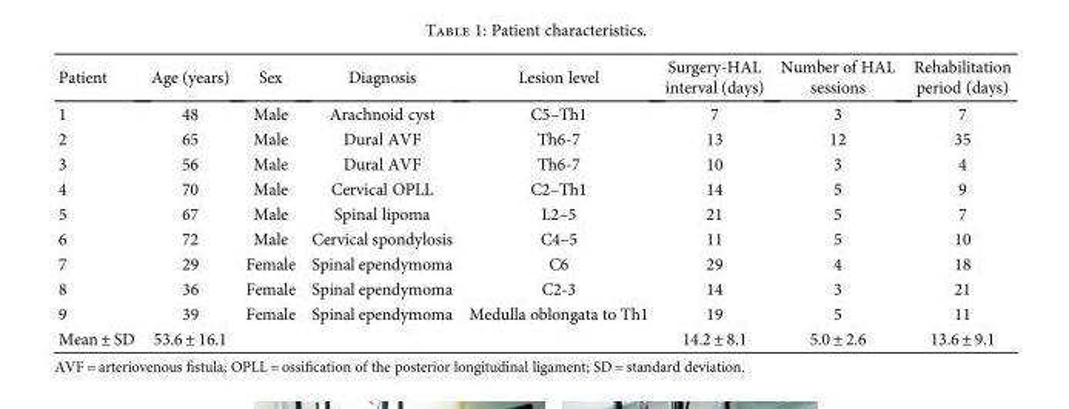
<table><thead><tr><td>Patient</td><td>Age (years)</td><td>Sex</td><td>Diagnosis</td><td>Lesion level</td><td>Surgery-HAL interval (days)</td><td>Number of HAL sessions</td><td>Rehabilitation period (days)</td></tr></thead><tbody><tr><td>1</td><td>48</td><td>Male</td><td>Arachnoid cyst</td><td>C5–Th1</td><td>7</td><td>3</td><td>7</td></tr><tr><td>2</td><td>65</td><td>Male</td><td>Dural AVF</td><td>Th6-7</td><td>13</td><td>12</td><td>35</td></tr><tr><td>3</td><td>56</td><td>Male</td><td>Dural AVF</td><td>Th6-7</td><td>10</td><td>3</td><td>4</td></tr><tr><td>4</td><td>70</td><td>Male</td><td>Cervical OPLL</td><td>C2–Th1</td><td>14</td><td>5</td><td>9</td></tr><tr><td>5</td><td>67</td><td>Male</td><td>Spinal lipoma</td><td>L2–5</td><td>21</td><td>5</td><td>7</td></tr><tr><td>6</td><td>72</td><td>Male</td><td>Cervical spondylosis</td><td>C4–5</td><td>11</td><td>5</td><td>10</td></tr><tr><td>7</td><td>29</td><td>Female</td><td>Spinal ependymoma</td><td>C6</td><td>29</td><td>4</td><td>18</td></tr><tr><td>8</td><td>36</td><td>Female</td><td>Spinal ependymoma</td><td>C2-3</td><td>14</td><td>3</td><td>21</td></tr><tr><td>9</td><td>39</td><td>Female</td><td>Spinal ependymoma</td><td>Medulla oblongata to Th1</td><td>19</td><td>5</td><td>11</td></tr><tr><td>Mean ± SD</td><td>53.6 ± 16.1</td><td></td><td></td><td></td><td>14.2 ± 8.1</td><td>5.0 ± 2.6</td><td>13.6 ± 9.1</td></tr></tbody></table>